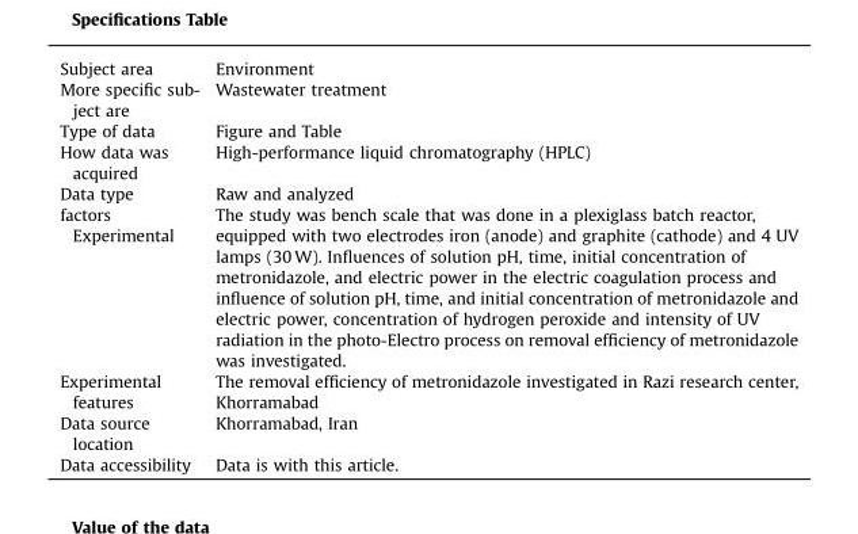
<table><tbody><tr><td>Subject area</td><td>Environment</td></tr><tr><td>More specific sub- ject are</td><td>Wastewater treatment</td></tr><tr><td>Type of data</td><td>Figure and Table</td></tr><tr><td>How data was acquired</td><td>High-performance liquid chromatography (HPLC)</td></tr><tr><td>Data type</td><td>Raw and analyzed</td></tr><tr><td>factors Experimental</td><td>The study was bench scale that was done in a plexiglass batch reactor, equipped with two electrodes iron (anode) and graphite (cathode) and 4 UV lamps (30 W). Influences of solution pH, time, initial concentration of metronidazole, and electric power in the electric coagulation process and influence of solution pH, time, and initial concentration of metronidazole and electric power, concentration of hydrogen peroxide and intensity of UV radiation in the photo-Electro process on removal efficiency of metronidazole was investigated.</td></tr><tr><td>Experimental features</td><td>The removal efficiency of metronidazole investigated in Razi research center, Khorramabad</td></tr><tr><td>Data source location</td><td>Khorramabad, Iran</td></tr><tr><td>Data accessibility</td><td>Data is with this article.</td></tr></tbody></table>